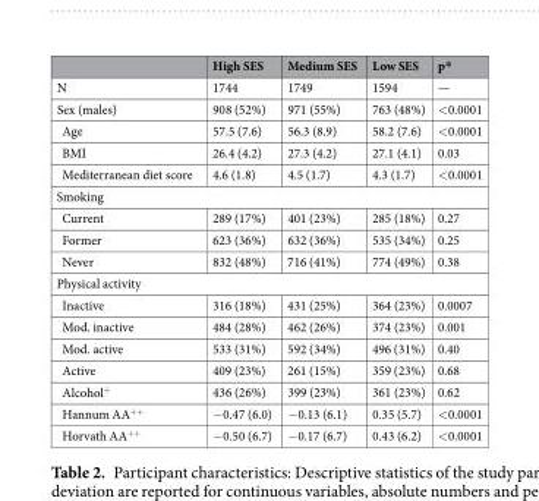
<table><thead><tr><td></td><td>High SES</td><td>Medium SES</td><td>Low SES</td><td>p*</td></tr></thead><tbody><tr><td>N</td><td>1744</td><td>1749</td><td>1594</td><td>—</td></tr><tr><td>Sex (males)</td><td>908 (52%)</td><td>971 (55%)</td><td>763 (48%)</td><td>&lt;0.0001</td></tr><tr><td>Age</td><td>57.5 (7.6)</td><td>56.3 (8.9)</td><td>58.2 (7.6)</td><td>&lt;0.0001</td></tr><tr><td>BMI</td><td>26.4 (4.2)</td><td>27.3 (4.2)</td><td>27.1 (4.1)</td><td>0.03</td></tr><tr><td>Mediterranean diet score</td><td>4.6 (1.8)</td><td>4.5 (1.7)</td><td>4.3 (1.7)</td><td>&lt;0.0001</td></tr><tr><td colspan="5">Smoking</td></tr><tr><td>Current</td><td>289 (17%)</td><td>401 (23%)</td><td>285 (18%)</td><td>0.27</td></tr><tr><td>Former</td><td>623 (36%)</td><td>632 (36%)</td><td>535 (34%)</td><td>0.25</td></tr><tr><td>Never</td><td>832 (48%)</td><td>716 (41%)</td><td>774 (49%)</td><td>0.38</td></tr><tr><td colspan="5">Physical activity</td></tr><tr><td>Inactive</td><td>316 (18%)</td><td>431 (25%)</td><td>364 (23%)</td><td>0.0007</td></tr><tr><td>Mod. inactive</td><td>484 (28%)</td><td>462 (26%)</td><td>374 (23%)</td><td>0.001</td></tr><tr><td>Mod. active</td><td>533 (31%)</td><td>592 (34%)</td><td>496 (31%)</td><td>0.40</td></tr><tr><td>Active</td><td>409 (23%)</td><td>261 (15%)</td><td>359 (23%)</td><td>0.68</td></tr><tr><td>Alcohol<sup>+</sup></td><td>436 (26%)</td><td>399 (23%)</td><td>361 (23%)</td><td>0.62</td></tr><tr><td>Hannum AA<sup>++</sup></td><td>−0.47 (6.0)</td><td>−0.13 (6.1)</td><td>0.35 (5.7)</td><td>&lt;0.0001</td></tr><tr><td>Horvath AA<sup>++</sup></td><td>−0.50 (6.7)</td><td>−0.17 (6.7)</td><td>0.43 (6.2)</td><td>&lt;0.0001</td></tr></tbody></table>